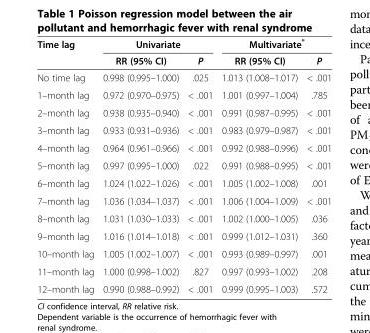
<table><thead><tr><td rowspan="2">Time lag</td><td colspan="2">Univariate</td><td colspan="2">Multivariate*</td></tr><tr><td>RR (95% CI)</td><td>P</td><td>RR (95% CI)</td><td>P</td></tr></thead><tbody><tr><td>No time lag</td><td>0.998 (0.995–1.000)</td><td>.025</td><td>1.013 (1.008–1.017)</td><td>&lt; .001</td></tr><tr><td>1–month lag</td><td>0.972 (0.970–0.975)</td><td>&lt; .001</td><td>1.001 (0.997–1.004)</td><td>.785</td></tr><tr><td>2–month lag</td><td>0.938 (0.935–0.940)</td><td>&lt; .001</td><td>0.991 (0.987–0.995)</td><td>&lt; .001</td></tr><tr><td>3–month lag</td><td>0.933 (0.931–0.936)</td><td>&lt; .001</td><td>0.983 (0.979–0.987)</td><td>&lt; .001</td></tr><tr><td>4–month lag</td><td>0.964 (0.961–0.966)</td><td>&lt; .001</td><td>0.992 (0.988–0.996)</td><td>&lt; .001</td></tr><tr><td>5–month lag</td><td>0.997 (0.995–1.000)</td><td>.022</td><td>0.991 (0.988–0.995)</td><td>&lt; .001</td></tr><tr><td>6–month lag</td><td>1.024 (1.022–1.026)</td><td>&lt; .001</td><td>1.005 (1.002–1.008)</td><td>.001</td></tr><tr><td>7–month lag</td><td>1.036 (1.034–1.037)</td><td>&lt; .001</td><td>1.006 (1.004–1.009)</td><td>&lt; .001</td></tr><tr><td>8–month lag</td><td>1.031 (1.030–1.033)</td><td>&lt; .001</td><td>1.002 (1.000–1.005)</td><td>.036</td></tr><tr><td>9–month lag</td><td>1.016 (1.014–1.018)</td><td>&lt; .001</td><td>0.999 (1.012–1.031)</td><td>.360</td></tr><tr><td>10–month lag</td><td>1.005 (1.002–1.007)</td><td>&lt; .001</td><td>0.993 (0.989–0.997)</td><td>.001</td></tr><tr><td>11–month lag</td><td>1.000 (0.998–1.002)</td><td>.827</td><td>0.997 (0.993–1.002)</td><td>.208</td></tr><tr><td>12–month lag</td><td>0.990 (0.988–0.992)</td><td>&lt; .001</td><td>0.999 (0.995–1.003)</td><td>.572</td></tr></tbody></table>